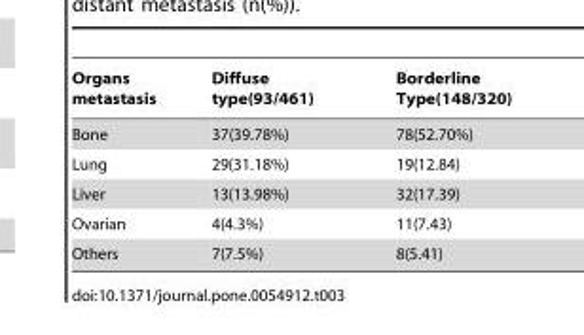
<table><thead><tr><td>Organs metastasis</td><td>Diffuse type(93/461)</td><td>Borderline Type(148/320)</td></tr></thead><tbody><tr><td>Bone</td><td>37(39.78%)</td><td>78(52.70%)</td></tr><tr><td>Lung</td><td>29(31.18%)</td><td>19(12.84)</td></tr><tr><td>Liver</td><td>13(13.98%)</td><td>32(17.39)</td></tr><tr><td>Ovarian</td><td>4(4.3%)</td><td>11(7.43)</td></tr><tr><td>Others</td><td>7(7.5%)</td><td>8(5.41)</td></tr></tbody></table>